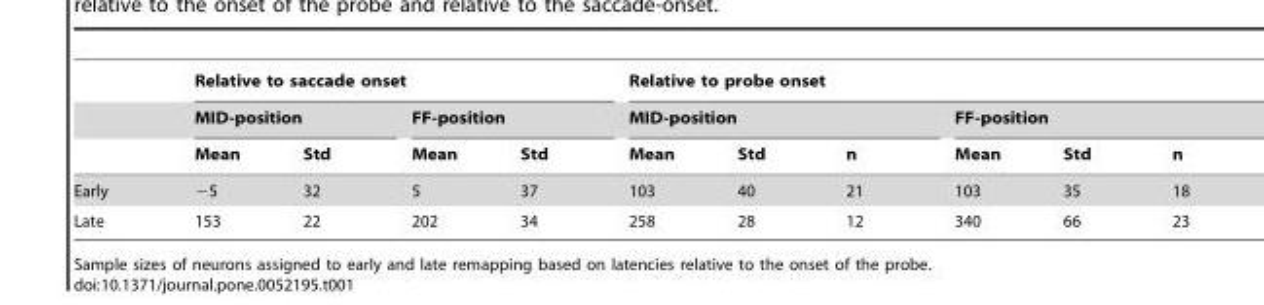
<table><thead><tr><td rowspan="3"></td><td colspan="4">Relative to saccade onset</td><td colspan="6">Relative to probe onset</td></tr><tr><td colspan="2">MID-position</td><td colspan="2">FF-position</td><td colspan="3">MID-position</td><td colspan="3">FF-position</td></tr><tr><td>Mean</td><td>Std</td><td>Mean</td><td>Std</td><td>Mean</td><td>Std</td><td>n</td><td>Mean</td><td>Std</td><td>n</td></tr></thead><tbody><tr><td>Early</td><td>−5</td><td>32</td><td>5</td><td>37</td><td>103</td><td>40</td><td>21</td><td>103</td><td>35</td><td>18</td></tr><tr><td>Late</td><td>153</td><td>22</td><td>202</td><td>34</td><td>258</td><td>28</td><td>12</td><td>340</td><td>66</td><td>23</td></tr></tbody></table>